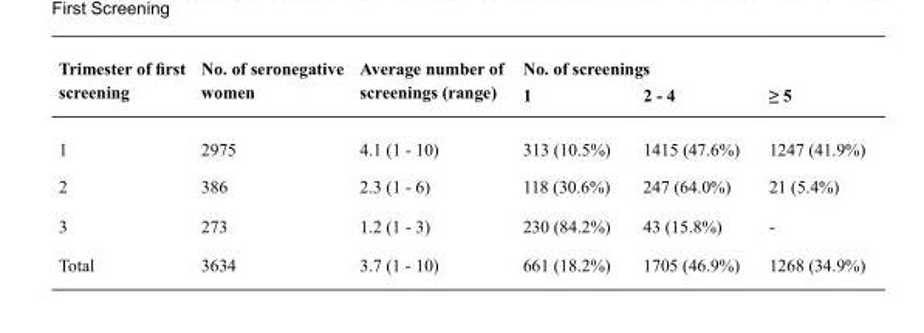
<table><thead><tr><td rowspan="2">Trimester of first screening</td><td rowspan="2">No. of seronegative women</td><td rowspan="2">Average number of screenings (range)</td><td colspan="3">No. of screenings</td></tr><tr><td>1</td><td>2 - 4</td><td>≥ 5</td></tr></thead><tbody><tr><td>1</td><td>2975</td><td>4.1 (1 - 10)</td><td>313 (10.5%)</td><td>1415 (47.6%)</td><td>1247 (41.9%)</td></tr><tr><td>2</td><td>386</td><td>2.3 (1 - 6)</td><td>118 (30.6%)</td><td>247 (64.0%)</td><td>21 (5.4%)</td></tr><tr><td>3</td><td>273</td><td>1.2 (1 - 3)</td><td>230 (84.2%)</td><td>43 (15.8%)</td><td>-</td></tr><tr><td>Total</td><td>3634</td><td>3.7 (1 - 10)</td><td>661 (18.2%)</td><td>1705 (46.9%)</td><td>1268 (34.9%)</td></tr></tbody></table>